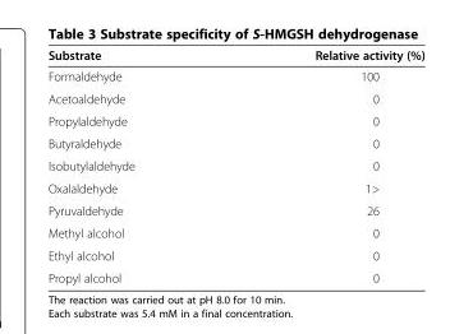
<table><thead><tr><td>Substrate</td><td>Relative activity (%)</td></tr></thead><tbody><tr><td>Formaldehyde</td><td>100</td></tr><tr><td>Acetoaldehyde</td><td>0</td></tr><tr><td>Propylaldehyde</td><td>0</td></tr><tr><td>Butyraldehyde</td><td>0</td></tr><tr><td>Isobutylaldehyde</td><td>0</td></tr><tr><td>Oxalaldehyde</td><td>1&gt;</td></tr><tr><td>Pyruvaldehyde</td><td>26</td></tr><tr><td>Methyl alcohol</td><td>0</td></tr><tr><td>Ethyl alcohol</td><td>0</td></tr><tr><td>Propyl alcohol</td><td>0</td></tr></tbody></table>